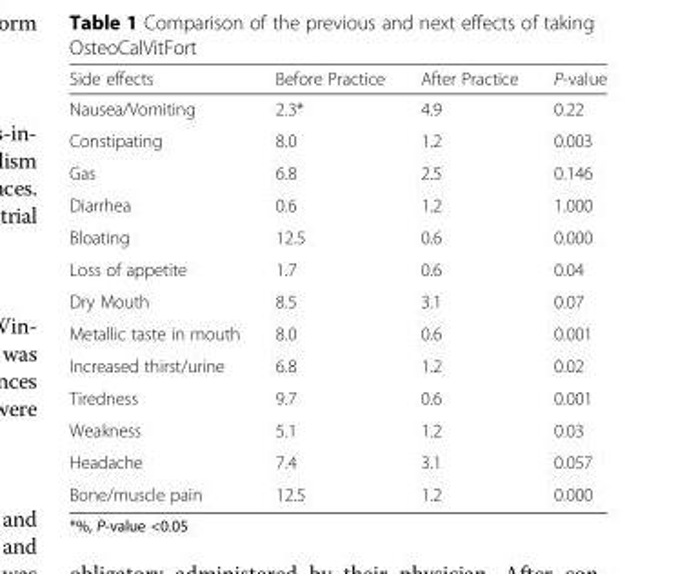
<table><thead><tr><td>Side effects</td><td>Before Practice</td><td>After Practice</td><td>P-value</td></tr></thead><tbody><tr><td>Nausea/Vomiting</td><td>2.3*</td><td>4.9</td><td>0.22</td></tr><tr><td>Constipating</td><td>8.0</td><td>1.2</td><td>0.003</td></tr><tr><td>Gas</td><td>6.8</td><td>2.5</td><td>0.146</td></tr><tr><td>Diarrhea</td><td>0.6</td><td>1.2</td><td>1.000</td></tr><tr><td>Bloating</td><td>12.5</td><td>0.6</td><td>0.000</td></tr><tr><td>Loss of appetite</td><td>1.7</td><td>0.6</td><td>0.04</td></tr><tr><td>Dry Mouth</td><td>8.5</td><td>3.1</td><td>0.07</td></tr><tr><td>Metallic taste in mouth</td><td>8.0</td><td>0.6</td><td>0.001</td></tr><tr><td>Increased thirst/urine</td><td>6.8</td><td>1.2</td><td>0.02</td></tr><tr><td>Tiredness</td><td>9.7</td><td>0.6</td><td>0.001</td></tr><tr><td>Weakness</td><td>5.1</td><td>1.2</td><td>0.03</td></tr><tr><td>Headache</td><td>7.4</td><td>3.1</td><td>0.057</td></tr><tr><td>Bone/muscle pain</td><td>12.5</td><td>1.2</td><td>0.000</td></tr></tbody></table>